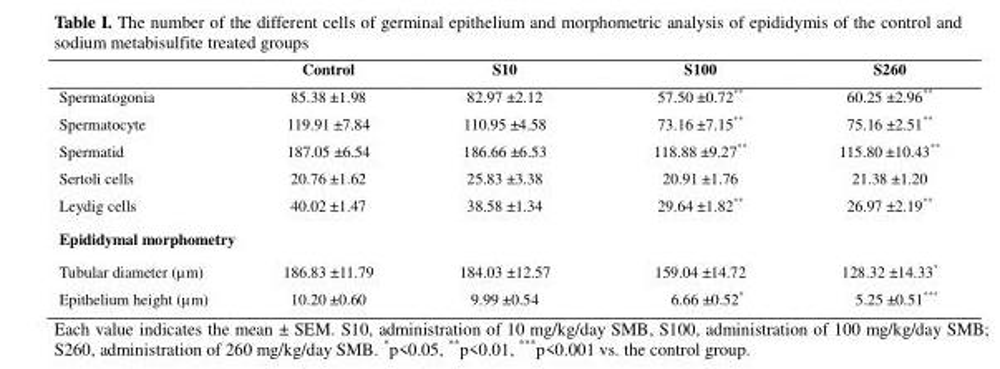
<table><thead><tr><td></td><td>Control</td><td>S10</td><td>S100</td><td>S260</td></tr></thead><tbody><tr><td>Spermatogonia</td><td>85.38 ±1.98</td><td>82.97 ±2.12</td><td>57.50 ±0.72**</td><td>60.25 ±2.96**</td></tr><tr><td>Spermatocyte</td><td>119.91 ±7.84</td><td>110.95 ±4.58</td><td>73.16 ±7.15**</td><td>75.16 ±2.51**</td></tr><tr><td>Spermatid</td><td>187.05 ±6.54</td><td>186.66 ±6.53</td><td>118.88 ±9.27**</td><td>115.80 ±10.43**</td></tr><tr><td>Sertoli cells</td><td>20.76 ±1.62</td><td>25.83 ±3.38</td><td>20.91 ±1.76</td><td>21.38 ±1.20</td></tr><tr><td>Leydig cells</td><td>40.02 ±1.47</td><td>38.58 ±1.34</td><td>29.64 ±1.82**</td><td>26.97 ±2.19**</td></tr><tr><td colspan="5">Epididymal morphometry</td></tr><tr><td>Tubular diameter (µm) Epithelium height (µm)</td><td>186.83 ±11.79 10.20 ±0.60</td><td>184.03 ±12.57 9.99 ±0.54</td><td>159.04 ±14.72 6.66 ±0.52*</td><td>128.32 ±14.33* 5.25 ±0.51***</td></tr></tbody></table>